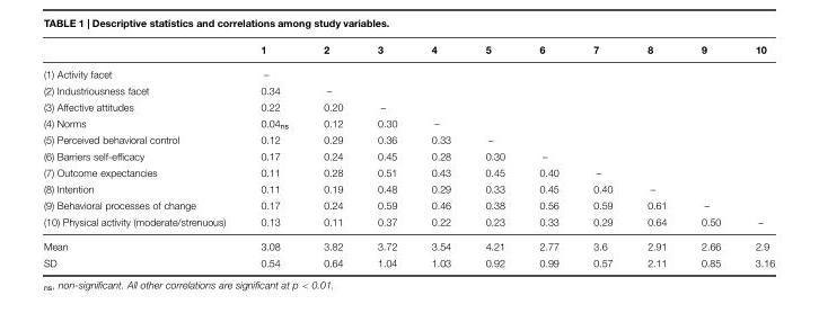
<table><thead><tr><td></td><td>1</td><td>2</td><td>3</td><td>4</td><td>5</td><td>6</td><td>7</td><td>8</td><td>9</td><td>10</td></tr></thead><tbody><tr><td>(1) Activity facet</td><td>–</td><td></td><td></td><td></td><td></td><td></td><td></td><td></td><td></td><td></td></tr><tr><td>(2) Industriousness facet</td><td>0.34</td><td>–</td><td></td><td></td><td></td><td></td><td></td><td></td><td></td><td></td></tr><tr><td>(3) Affective attitudes</td><td>0.22</td><td>0.20</td><td>–</td><td></td><td></td><td></td><td></td><td></td><td></td><td></td></tr><tr><td>(4) Norms</td><td>0.04<sub>ns</sub></td><td>0.12</td><td>0.30</td><td>–</td><td></td><td></td><td></td><td></td><td></td><td></td></tr><tr><td>(5) Perceived behavioral control</td><td>0.12</td><td>0.29</td><td>0.36</td><td>0.33</td><td>–</td><td></td><td></td><td></td><td></td><td></td></tr><tr><td>(6) Barriers self-efficacy</td><td>0.17</td><td>0.24</td><td>0.45</td><td>0.28</td><td>0.30</td><td>–</td><td></td><td></td><td></td><td></td></tr><tr><td>(7) Outcome expectancies</td><td>0.11</td><td>0.28</td><td>0.51</td><td>0.43</td><td>0.45</td><td>0.40</td><td>–</td><td></td><td></td><td></td></tr><tr><td>(8) Intention</td><td>0.11</td><td>0.19</td><td>0.48</td><td>0.29</td><td>0.33</td><td>0.45</td><td>0.40</td><td>–</td><td></td><td></td></tr><tr><td>(9) Behavioral processes of change</td><td>0.17</td><td>0.24</td><td>0.59</td><td>0.46</td><td>0.38</td><td>0.56</td><td>0.59</td><td>0.61</td><td>–</td><td></td></tr><tr><td>(10) Physical activity (moderate/strenuous)</td><td>0.13</td><td>0.11</td><td>0.37</td><td>0.22</td><td>0.23</td><td>0.33</td><td>0.29</td><td>0.64</td><td>0.50</td><td>–</td></tr><tr><td>Mean</td><td>3.08</td><td>3.82</td><td>3.72</td><td>3.54</td><td>4.21</td><td>2.77</td><td>3.6</td><td>2.91</td><td>2.66</td><td>2.9</td></tr><tr><td>SD</td><td>0.54</td><td>0.64</td><td>1.04</td><td>1.03</td><td>0.92</td><td>0.99</td><td>0.57</td><td>2.11</td><td>0.85</td><td>3.16</td></tr></tbody></table>